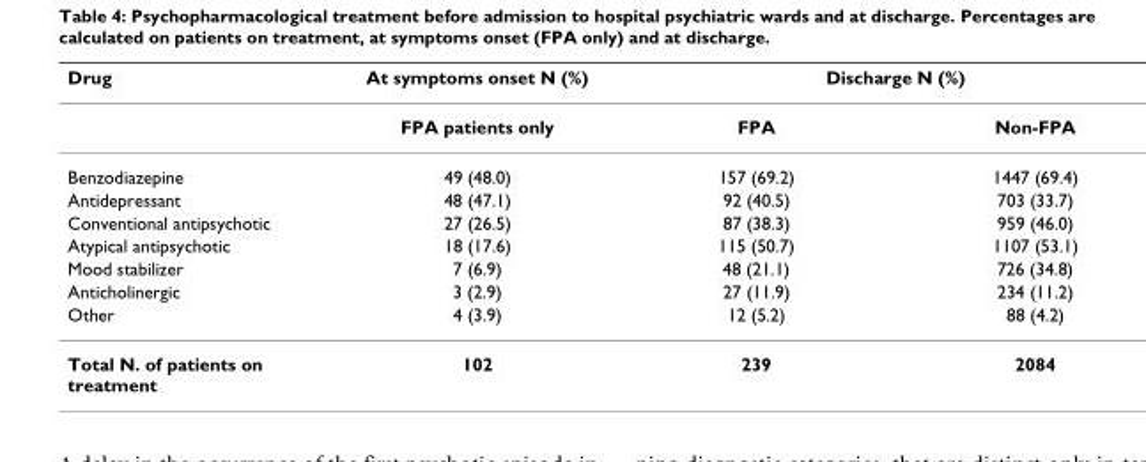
<table><thead><tr><td rowspan="2">Drug</td><td rowspan="2">At symptoms onset N (%) FPA patients only</td><td colspan="2">Discharge N (%)</td></tr><tr><td>FPA</td><td>Non-FPA</td></tr></thead><tbody><tr><td>Benzodiazepine</td><td>49 (48.0)</td><td>157 (69.2)</td><td>1447 (69.4)</td></tr><tr><td>Antidepressant</td><td>48 (47.1)</td><td>92 (40.5)</td><td>703 (33.7)</td></tr><tr><td>Conventional antipsychotic</td><td>27 (26.5)</td><td>87 (38.3)</td><td>959 (46.0)</td></tr><tr><td>Atypical antipsychotic</td><td>18 (17.6)</td><td>115 (50.7)</td><td>1107 (53.1)</td></tr><tr><td>Mood stabilizer</td><td>7 (6.9)</td><td>48 (21.1)</td><td>726 (34.8)</td></tr><tr><td>Anticholinergic</td><td>3 (2.9)</td><td>27 (11.9)</td><td>234 (11.2)</td></tr><tr><td>Other</td><td>4 (3.9)</td><td>12 (5.2)</td><td>88 (4.2)</td></tr><tr><td>Total N. of patients on treatment</td><td>102</td><td>239</td><td>2084</td></tr></tbody></table>